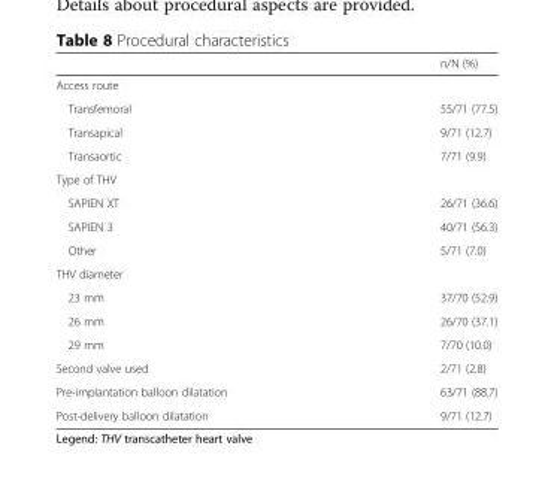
<table><thead><tr><td></td><td>n/N (%)</td></tr></thead><tbody><tr><td colspan="2">Access route</td></tr><tr><td>Transfemoral</td><td>55/71 (77.5)</td></tr><tr><td>Transapical</td><td>9/71 (12.7)</td></tr><tr><td>Transaortic</td><td>7/71 (9.9)</td></tr><tr><td colspan="2">Type of THV</td></tr><tr><td>SAPIEN XT</td><td>26/71 (36.6)</td></tr><tr><td>SAPIEN 3</td><td>40/71 (56.3)</td></tr><tr><td>Other</td><td>5/71 (7.0)</td></tr><tr><td colspan="2">THV diameter</td></tr><tr><td>23 mm</td><td>37/70 (52.9)</td></tr><tr><td>26 mm</td><td>26/70 (37.1)</td></tr><tr><td>29 mm</td><td>7/70 (10.0)</td></tr><tr><td>Second valve used</td><td>2/71 (2.8)</td></tr><tr><td>Pre-implantation balloon dilatation</td><td>63/71 (88.7)</td></tr><tr><td>Post-delivery balloon dilatation</td><td>9/71 (12.7)</td></tr></tbody></table>